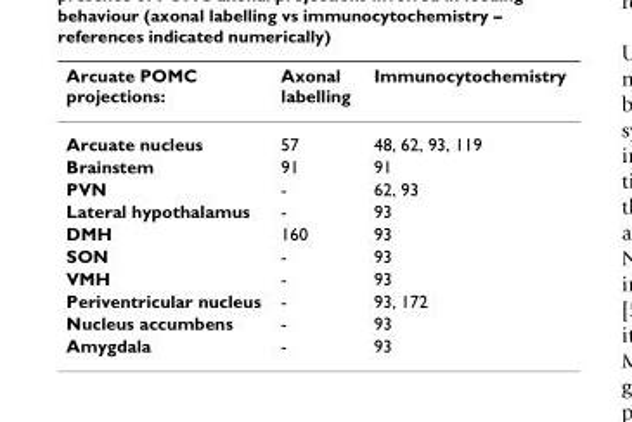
<table><thead><tr><td>Arcuate POMC projections:</td><td>Axonal labelling</td><td>Immunocytochemistry</td></tr></thead><tbody><tr><td>Arcuate nucleus</td><td>57</td><td>48, 62, 93, 119</td></tr><tr><td>Brainstem</td><td>91</td><td>91</td></tr><tr><td>PVN</td><td>-</td><td>62, 93</td></tr><tr><td>Lateral hypothalamus</td><td>-</td><td>93</td></tr><tr><td>DMH</td><td>160</td><td>93</td></tr><tr><td>SON</td><td>-</td><td>93</td></tr><tr><td>VMH</td><td>-</td><td>93</td></tr><tr><td>Periventricular nucleus</td><td>-</td><td>93, 172</td></tr><tr><td>Nucleus accumbens</td><td>-</td><td>93</td></tr><tr><td>Amygdala</td><td>-</td><td>93</td></tr></tbody></table>